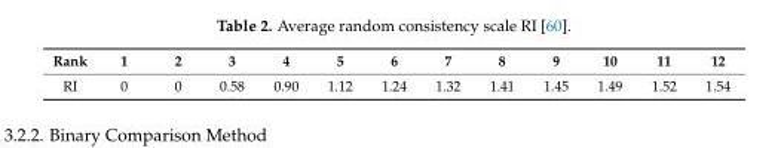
<table><thead><tr><td>Rank</td><td>1</td><td>2</td><td>3</td><td>4</td><td>5</td><td>6</td><td>7</td><td>8</td><td>9</td><td>10</td><td>11</td><td>12</td></tr></thead><tbody><tr><td>RI</td><td>0</td><td>0</td><td>0.58</td><td>0.90</td><td>1.12</td><td>1.24</td><td>1.32</td><td>1.41</td><td>1.45</td><td>1.49</td><td>1.52</td><td>1.54</td></tr></tbody></table>